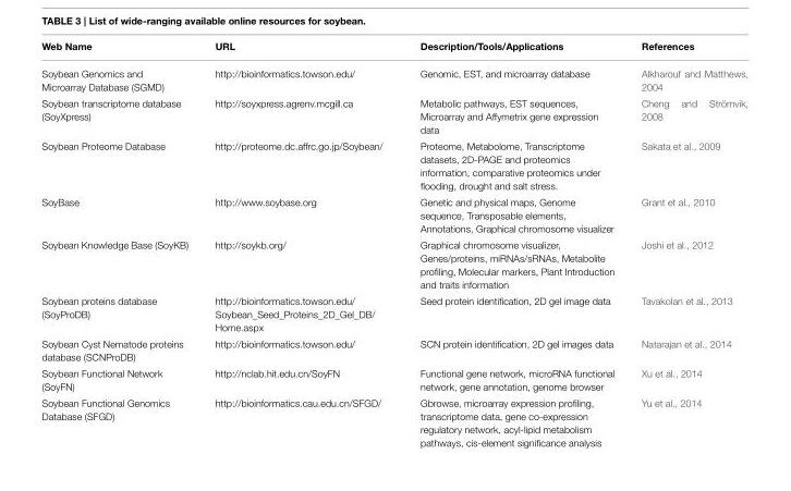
<table><thead><tr><td>Web Name</td><td>URL</td><td>Description/Tools/Applications</td><td>References</td></tr></thead><tbody><tr><td>Soybean Genomics and Microarray Database (SGMD)</td><td>http://bioinformatics.towson.edu/</td><td>Genomic, EST, and microarray database</td><td>Alkharouf and Matthews, 2004</td></tr><tr><td>Soybean transcriptome database (SoyXpress)</td><td>http://soyxpress.agrenv.mcgill.ca</td><td>Metabolic pathways, EST sequences, Microarray and Affymetrix gene expression data</td><td>Cheng and Strömvik, 2008</td></tr><tr><td>Soybean Proteome Database</td><td>http://proteome.dc.affrc.go.jp/Soybean/</td><td>Proteome, Metabolome, Transcriptome datasets, 2D-PAGE and proteomics information, comparative proteomics under flooding, drought and salt stress.</td><td>Sakata et al., 2009</td></tr><tr><td>SoyBase</td><td>http://www.soybase.org</td><td>Genetic and physical maps, Genome sequence, Transposable elements, Annotations, Graphical chromosome visualizer</td><td>Grant et al., 2010</td></tr><tr><td>Soybean Knowledge Base (SoyKB)</td><td>http://soykb.org/</td><td>Graphical chromosome visualizer, Genes/proteins, miRNAs/sRNAs, Metabolite profiling, Molecular markers, Plant Introduction and traits information</td><td>Joshi et al., 2012</td></tr><tr><td>Soybean proteins database (SoyProDB)</td><td>http://bioinformatics.towson.edu/ Soybean_Seed_Proteins_2D_Gel_DB/ Home.aspx</td><td>Seed protein identification, 2D gel image data</td><td>Tavakolan et al., 2013</td></tr><tr><td>Soybean Cyst Nematode proteins database (SCNProDB)</td><td>http://bioinformatics.towson.edu/</td><td>SCN protein identification, 2D gel images data</td><td>Natarajan et al., 2014</td></tr><tr><td>Soybean Functional Network (SoyFN)</td><td>http://nclab.hit.edu.cn/SoyFN</td><td>Functional gene network, microRNA functional network, gene annotation, genome browser</td><td>Xu et al., 2014</td></tr><tr><td>Soybean Functional Genomics Database (SFGD)</td><td>http://bioinformatics.cau.edu.cn/SFGD/</td><td>Gbrowse, microarray expression profiling, transcriptome data, gene co-expression regulatory network, acyl-lipid metabolism pathways, cis-element significance analysis</td><td>Yu et al., 2014</td></tr></tbody></table>